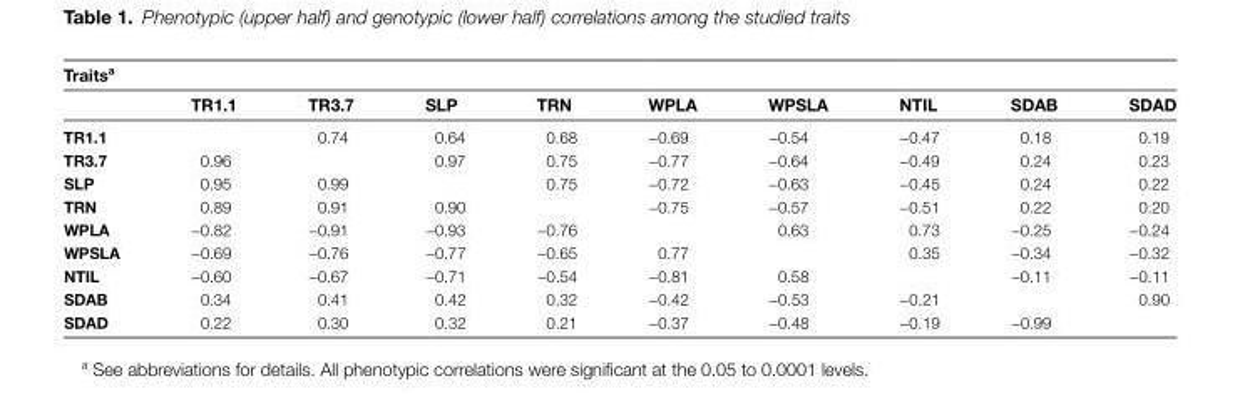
<table><thead><tr><td colspan="10">Traits<sup>a</sup></td></tr><tr><td></td><td>TR1.1</td><td>TR3.7</td><td>SLP</td><td>TRN</td><td>WPLA</td><td>WPSLA</td><td>NTIL</td><td>SDAB</td><td>SDAD</td></tr></thead><tbody><tr><td>TR1.1</td><td></td><td>0.74</td><td>0.64</td><td>0.68</td><td>−0.69</td><td>−0.54</td><td>−0.47</td><td>0.18</td><td>0.19</td></tr><tr><td>TR3.7</td><td>0.96</td><td></td><td>0.97</td><td>0.75</td><td>−0.77</td><td>−0.64</td><td>−0.49</td><td>0.24</td><td>0.23</td></tr><tr><td>SLP</td><td>0.95</td><td>0.99</td><td></td><td>0.75</td><td>−0.72</td><td>−0.63</td><td>−0.45</td><td>0.24</td><td>0.22</td></tr><tr><td>TRN</td><td>0.89</td><td>0.91</td><td>0.90</td><td></td><td>−0.75</td><td>−0.57</td><td>−0.51</td><td>0.22</td><td>0.20</td></tr><tr><td>WPLA</td><td>−0.82</td><td>−0.91</td><td>−0.93</td><td>−0.76</td><td></td><td>0.63</td><td>0.73</td><td>−0.25</td><td>−0.24</td></tr><tr><td>WPSLA</td><td>−0.69</td><td>−0.76</td><td>−0.77</td><td>−0.65</td><td>0.77</td><td></td><td>0.35</td><td>−0.34</td><td>−0.32</td></tr><tr><td>NTIL</td><td>−0.60</td><td>−0.67</td><td>−0.71</td><td>−0.54</td><td>−0.81</td><td>0.58</td><td></td><td>−0.11</td><td>−0.11</td></tr><tr><td>SDAB</td><td>0.34</td><td>0.41</td><td>0.42</td><td>0.32</td><td>−0.42</td><td>−0.53</td><td>−0.21</td><td></td><td>0.90</td></tr><tr><td>SDAD</td><td>0.22</td><td>0.30</td><td>0.32</td><td>0.21</td><td>−0.37</td><td>−0.48</td><td>−0.19</td><td>−0.99</td><td></td></tr></tbody></table>